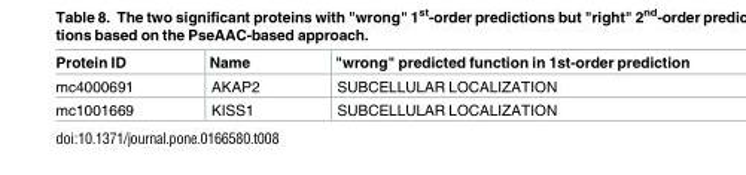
<table><thead><tr><td>Protein ID</td><td>Name</td><td>&quot;wrong&quot; predicted function in 1st-order prediction</td></tr></thead><tbody><tr><td>mc4000691</td><td>AKAP2</td><td>SUBCELLULAR LOCALIZATION</td></tr><tr><td>mc1001669</td><td>KISS1</td><td>SUBCELLULAR LOCALIZATION</td></tr></tbody></table>